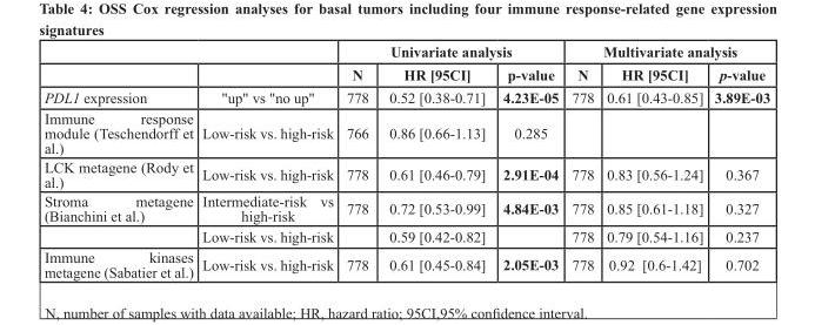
<table><thead><tr><td rowspan="2"></td><td rowspan="2"></td><td colspan="3">Univariate analysis</td><td colspan="3">Multivariate analysis</td></tr><tr><td>N</td><td>HR [95CI]</td><td>p-value</td><td>N</td><td>HR [95CI]</td><td>p-value</td></tr></thead><tbody><tr><td>PDL1 expression</td><td>&quot;up&quot; vs &quot;no up&quot;</td><td>778</td><td>0.52 [0.38-0.71]</td><td>4.23E-05</td><td>778</td><td>0.61 [0.43-0.85]</td><td>3.89E-03</td></tr><tr><td>Immune response module (Teschendorff et al.)</td><td>Low-risk vs. high-risk</td><td>766</td><td>0.86 [0.66-1.13]</td><td>0.285</td><td></td><td></td><td></td></tr><tr><td>LCK metagene (Rody et al.)</td><td>Low-risk vs. high-risk</td><td>778</td><td>0.61 [0.46-0.79]</td><td>2.91E-04</td><td>778</td><td>0.83 [0.56-1.24]</td><td>0.367</td></tr><tr><td rowspan="2">Stroma metagene (Bianchini et al.)</td><td>Intermediate-risk vs high-risk</td><td>778</td><td>0.72 [0.53-0.99]</td><td>4.84E-03</td><td>778</td><td>0.85 [0.61-1.18]</td><td>0.327</td></tr><tr><td>Low-risk vs. high-risk</td><td></td><td>0.59 [0.42-0.82]</td><td></td><td>778</td><td>0.79 [0.54-1.16]</td><td>0.237</td></tr><tr><td>Immune kinases metagene (Sabatier et al.)</td><td>Low-risk vs. high-risk</td><td>778</td><td>0.61 [0.45-0.84]</td><td>2.05E-03</td><td>778</td><td>0.92 [0.6-1.42]</td><td>0.702</td></tr></tbody></table>